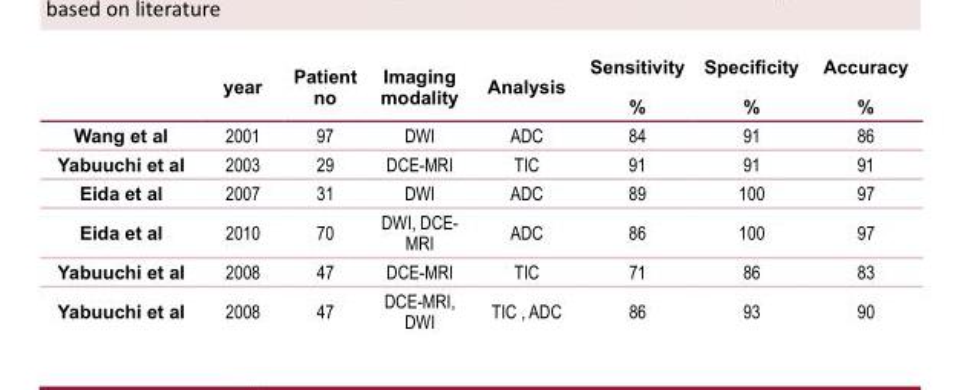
<table><thead><tr><td></td><td>year</td><td>Patient no</td><td>Imaging modality</td><td>Analysis</td><td>Sensitivity %</td><td>Specificity %</td><td>Accuracy %</td></tr></thead><tbody><tr><td>Wang et al</td><td>2001</td><td>97</td><td>DWI</td><td>ADC</td><td>84</td><td>91</td><td>86</td></tr><tr><td>Yabuuchi et al</td><td>2003</td><td>29</td><td>DCE-MRI</td><td>TIC</td><td>91</td><td>91</td><td>91</td></tr><tr><td>Eida et al</td><td>2007</td><td>31</td><td>DWI</td><td>ADC</td><td>89</td><td>100</td><td>97</td></tr><tr><td>Eida et al</td><td>2010</td><td>70</td><td>DWI, DCE- MRI</td><td>ADC</td><td>86</td><td>100</td><td>97</td></tr><tr><td>Yabuuchi et al</td><td>2008</td><td>47</td><td>DCE-MRI</td><td>TIC</td><td>71</td><td>86</td><td>83</td></tr><tr><td>Yabuuchi et al</td><td>2008</td><td>47</td><td>DCE-MRI, DWI</td><td>TIC , ADC</td><td>86</td><td>93</td><td>90</td></tr></tbody></table>